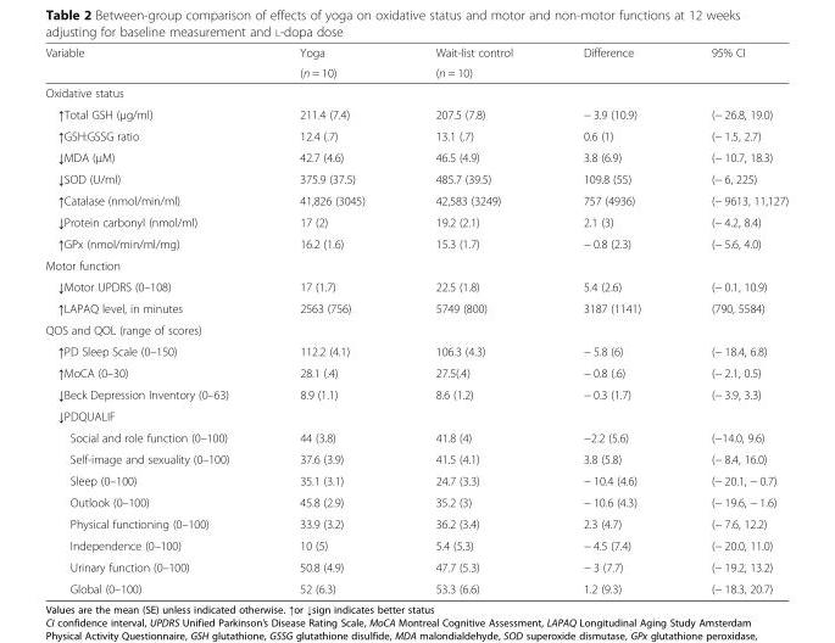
<table><thead><tr><td rowspan="2">Variable</td><td rowspan="2">Yoga (n = 10)</td><td rowspan="2">Wait-list control (n = 10)</td><td rowspan="2">Difference</td><td rowspan="2">95% CI</td></tr><tr></tr></thead><tbody><tr><td colspan="5">Oxidative status</td></tr><tr><td>↑Total GSH (μg/ml)</td><td>211.4 (7.4)</td><td>207.5 (7.8)</td><td>− 3.9 (10.9)</td><td>(− 26.8, 19.0)</td></tr><tr><td>↑GSH:GSSG ratio</td><td>12.4 (.7)</td><td>13.1 (.7)</td><td>0.6 (1)</td><td>(− 1.5, 2.7)</td></tr><tr><td>↓MDA (μM)</td><td>42.7 (4.6)</td><td>46.5 (4.9)</td><td>3.8 (6.9)</td><td>(− 10.7, 18.3)</td></tr><tr><td>↓SOD (U/ml)</td><td>375.9 (37.5)</td><td>485.7 (39.5)</td><td>109.8 (55)</td><td>(− 6, 225)</td></tr><tr><td>↑Catalase (nmol/min/ml)</td><td>41,826 (3045)</td><td>42,583 (3249)</td><td>757 (4936)</td><td>(− 9613, 11,127)</td></tr><tr><td>↓Protein carbonyl (nmol/ml)</td><td>17 (2)</td><td>19.2 (2.1)</td><td>2.1 (3)</td><td>(− 4.2, 8.4)</td></tr><tr><td>↑GPx (nmol/min/ml/mg)</td><td>16.2 (1.6)</td><td>15.3 (1.7)</td><td>− 0.8 (2.3)</td><td>(− 5.6, 4.0)</td></tr><tr><td colspan="5">Motor function</td></tr><tr><td>↓Motor UPDRS (0–108)</td><td>17 (1.7)</td><td>22.5 (1.8)</td><td>5.4 (2.6)</td><td>(− 0.1, 10.9)</td></tr><tr><td>↑LAPAQ level, in minutes</td><td>2563 (756)</td><td>5749 (800)</td><td>3187 (1141)</td><td>(790, 5584)</td></tr><tr><td colspan="5">QOS and QOL (range of scores)</td></tr><tr><td>↑PD Sleep Scale (0–150)</td><td>112.2 (4.1)</td><td>106.3 (4.3)</td><td>− 5.8 (6)</td><td>(− 18.4, 6.8)</td></tr><tr><td>↑MoCA (0–30)</td><td>28.1 (.4)</td><td>27.5(.4)</td><td>− 0.8 (.6)</td><td>(− 2.1, 0.5)</td></tr><tr><td>↓Beck Depression Inventory (0–63)</td><td>8.9 (1.1)</td><td>8.6 (1.2)</td><td>− 0.3 (1.7)</td><td>(− 3.9, 3.3)</td></tr><tr><td colspan="5">↓PDQUALIF</td></tr><tr><td>Social and role function (0–100)</td><td>44 (3.8)</td><td>41.8 (4)</td><td>−2.2 (5.6)</td><td>(−14.0, 9.6)</td></tr><tr><td>Self-image and sexuality (0–100)</td><td>37.6 (3.9)</td><td>41.5 (4.1)</td><td>3.8 (5.8)</td><td>(− 8.4, 16.0)</td></tr><tr><td>Sleep (0–100)</td><td>35.1 (3.1)</td><td>24.7 (3.3)</td><td>− 10.4 (4.6)</td><td>(− 20.1, − 0.7)</td></tr><tr><td>Outlook (0–100)</td><td>45.8 (2.9)</td><td>35.2 (3)</td><td>− 10.6 (4.3)</td><td>(− 19.6, − 1.6)</td></tr><tr><td>Physical functioning (0–100)</td><td>33.9 (3.2)</td><td>36.2 (3.4)</td><td>2.3 (4.7)</td><td>(− 7.6, 12.2)</td></tr><tr><td>Independence (0–100)</td><td>10 (5)</td><td>5.4 (5.3)</td><td>− 4.5 (7.4)</td><td>(− 20.0, 11.0)</td></tr><tr><td>Urinary function (0–100)</td><td>50.8 (4.9)</td><td>47.7 (5.3)</td><td>− 3 (7.7)</td><td>(− 19.2, 13.2)</td></tr><tr><td>Global (0–100)</td><td>52 (6.3)</td><td>53.3 (6.6)</td><td>1.2 (9.3)</td><td>(− 18.3, 20.7)</td></tr></tbody></table>